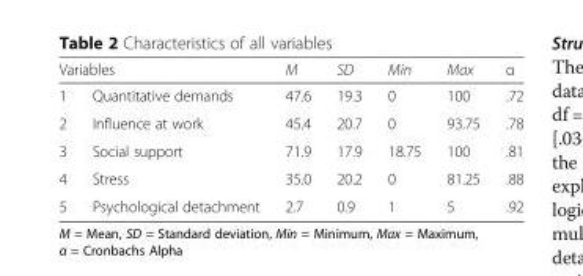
<table><thead><tr><td colspan="2">Variables</td><td rowspan="2">M 47.6</td><td rowspan="2">SD 19.3</td><td rowspan="2">Min 0</td><td rowspan="2">Max 100</td><td rowspan="2">α .72</td></tr><tr><td>1</td><td>Quantitative demands</td></tr></thead><tbody><tr><td>2</td><td>Influence at work</td><td>45.4</td><td>20.7</td><td>0</td><td>93.75</td><td>.78</td></tr><tr><td>3</td><td>Social support</td><td>71.9</td><td>17.9</td><td>18.75</td><td>100</td><td>.81</td></tr><tr><td>4</td><td>Stress</td><td>35.0</td><td>20.2</td><td>0</td><td>81.25</td><td>.88</td></tr><tr><td>5</td><td>Psychological detachment</td><td>2.7</td><td>0.9</td><td>1</td><td>5</td><td>.92</td></tr></tbody></table>